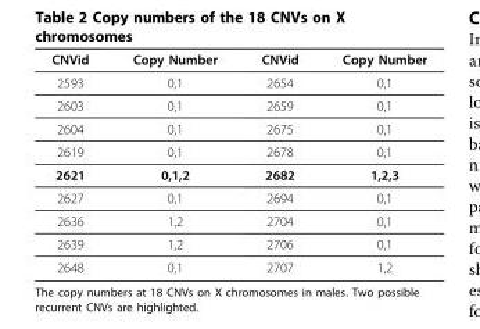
<table><tbody><tr><td>CNVid</td><td>Copy Number</td><td>CNVid</td><td>Copy Number</td></tr><tr><td>2593</td><td>0,1</td><td>2654</td><td>0,1</td></tr><tr><td>2603</td><td>0,1</td><td>2659</td><td>0,1</td></tr><tr><td>2604</td><td>0,1</td><td>2675</td><td>0,1</td></tr><tr><td>2619</td><td>0,1</td><td>2678</td><td>0,1</td></tr><tr><td>2621</td><td>0,1,2</td><td>2682</td><td>1,2,3</td></tr><tr><td>2627</td><td>0,1</td><td>2694</td><td>0,1</td></tr><tr><td>2636</td><td>1,2</td><td>2704</td><td>0,1</td></tr><tr><td>2639</td><td>1,2</td><td>2706</td><td>0,1</td></tr><tr><td>2648</td><td>0,1</td><td>2707</td><td>1,2</td></tr></tbody></table>